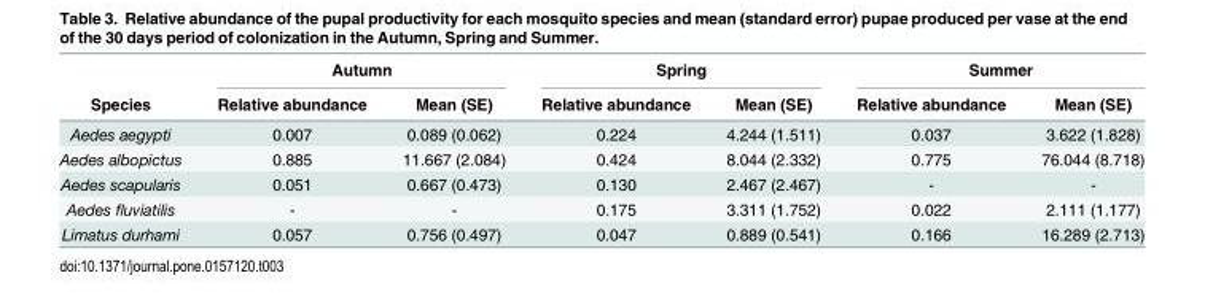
<table><thead><tr><td rowspan="2">Species</td><td colspan="2">Autumn</td><td colspan="2">Spring</td><td colspan="2">Summer</td></tr><tr><td>Relative abundance</td><td>Mean (SE)</td><td>Relative abundance</td><td>Mean (SE)</td><td>Relative abundance</td><td>Mean (SE)</td></tr></thead><tbody><tr><td>Aedes aegypti</td><td>0.007</td><td>0.089 (0.062)</td><td>0.224</td><td>4.244 (1.511)</td><td>0.037</td><td>3.622 (1.828)</td></tr><tr><td>Aedes albopictus</td><td>0.885</td><td>11.667 (2.084)</td><td>0.424</td><td>8.044 (2.332)</td><td>0.775</td><td>76.044 (8.718)</td></tr><tr><td>Aedes scapularis</td><td>0.051</td><td>0.667 (0.473)</td><td>0.130</td><td>2.467 (2.467)</td><td>-</td><td>-</td></tr><tr><td>Aedes fluviatilis</td><td>-</td><td>-</td><td>0.175</td><td>3.311 (1.752)</td><td>0.022</td><td>2.111 (1.177)</td></tr><tr><td>Limatus durhami</td><td>0.057</td><td>0.756 (0.497)</td><td>0.047</td><td>0.889 (0.541)</td><td>0.166</td><td>16.289 (2.713)</td></tr></tbody></table>